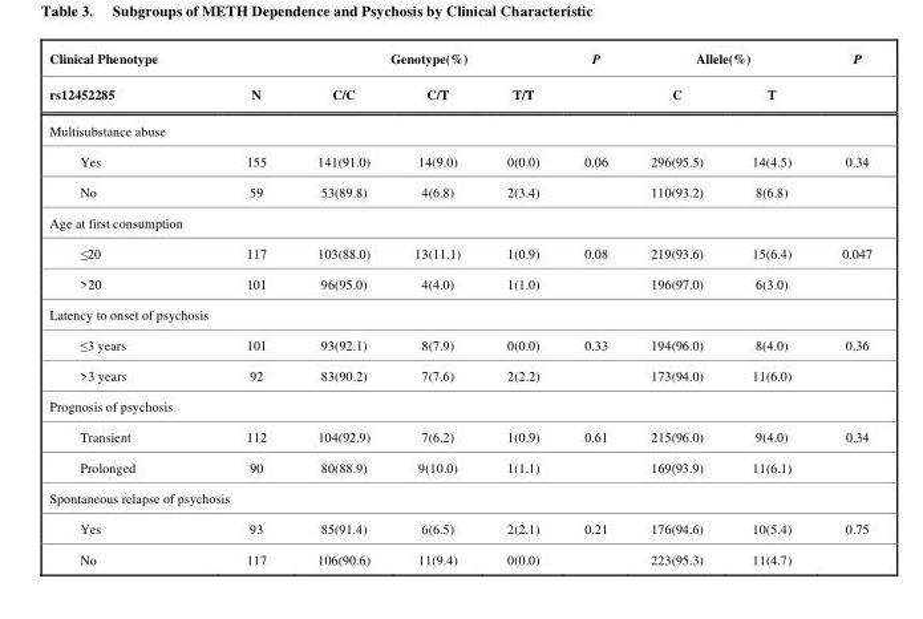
<table><thead><tr><td rowspan="2">Clinical Phenotype rs12452285</td><td rowspan="2">N</td><td rowspan="2">C/C</td><td rowspan="2">Genotype(%) C/T</td><td rowspan="2">T/T</td><td rowspan="2">P</td><td colspan="2">Allele(%)</td><td rowspan="2">P</td></tr><tr><td>C</td><td>T</td></tr></thead><tbody><tr><td colspan="9">Multisubstance abuse</td></tr><tr><td>Yes</td><td>155</td><td>141(91.0)</td><td>14(9.0)</td><td>0(0.0)</td><td>0.06</td><td>296(95.5)</td><td>14(4.5)</td><td>0.34</td></tr><tr><td>No</td><td>59</td><td>53(89.8)</td><td>4(6.8)</td><td>2(3.4)</td><td></td><td>110(93.2)</td><td>8(6.8)</td><td></td></tr><tr><td colspan="9">Age at first consumption</td></tr><tr><td>≤20</td><td>117</td><td>103(88.0)</td><td>13(11.1)</td><td>1(0.9)</td><td>0.08</td><td>219(93.6)</td><td>15(6.4)</td><td>0.047</td></tr><tr><td>&gt;20</td><td>101</td><td>96(95.0)</td><td>4(4.0)</td><td>1(1.0)</td><td></td><td>196(97.0)</td><td>6(3.0)</td><td></td></tr><tr><td colspan="9">Latency to onset of psychosis</td></tr><tr><td>≤3 years</td><td>101</td><td>93(92.1)</td><td>8(7.9)</td><td>0(0.0)</td><td>0.33</td><td>194(96.0)</td><td>8(4.0)</td><td>0.36</td></tr><tr><td>&gt;3 years</td><td>92</td><td>83(90.2)</td><td>7(7.6)</td><td>2(2.2)</td><td></td><td>173(94.0)</td><td>11(6.0)</td><td></td></tr><tr><td colspan="9">Prognosis of psychosis</td></tr><tr><td>Transient</td><td>112</td><td>104(92.9)</td><td>7(6.2)</td><td>1(0.9)</td><td>0.61</td><td>215(96.0)</td><td>9(4.0)</td><td>0.34</td></tr><tr><td>Prolonged</td><td>90</td><td>80(88.9)</td><td>9(10.0)</td><td>1(1.1)</td><td></td><td>169(93.9)</td><td>11(6.1)</td><td></td></tr><tr><td colspan="9">Spontaneous relapse of psychosis</td></tr><tr><td>Yes</td><td>93</td><td>85(91.4)</td><td>6(6.5)</td><td>2(2.1)</td><td>0.21</td><td>176(94.6)</td><td>10(5.4)</td><td>0.75</td></tr><tr><td>No</td><td>117</td><td>106(90.6)</td><td>11(9.4)</td><td>0(0.0)</td><td></td><td>223(95.3)</td><td>11(4.7)</td><td></td></tr></tbody></table>